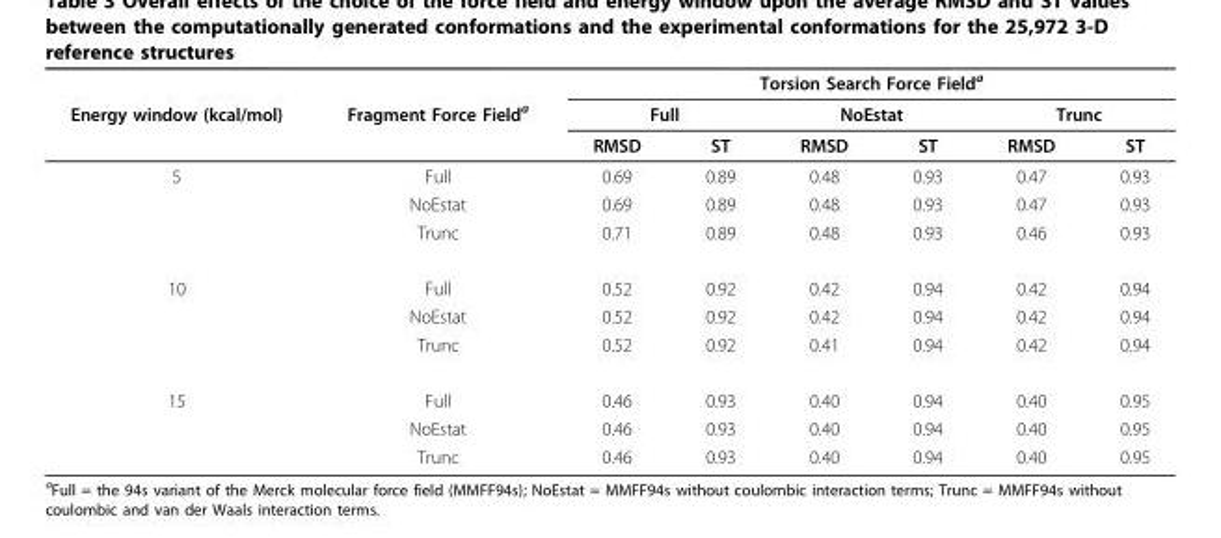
<table><thead><tr><td rowspan="3">Energy window (kcal/mol)</td><td rowspan="3">Fragment Force Field<sup>a</sup></td><td colspan="6">Torsion Search Force Field<sup>a</sup></td></tr><tr><td colspan="2">Full</td><td colspan="2">NoEstat</td><td colspan="2">Trunc</td></tr><tr><td>RMSD</td><td>ST</td><td>RMSD</td><td>ST</td><td>RMSD</td><td>ST</td></tr></thead><tbody><tr><td rowspan="3">5</td><td>Full</td><td>0.69</td><td>0.89</td><td>0.48</td><td>0.93</td><td>0.47</td><td>0.93</td></tr><tr><td>NoEstat</td><td>0.69</td><td>0.89</td><td>0.48</td><td>0.93</td><td>0.47</td><td>0.93</td></tr><tr><td>Trunc</td><td>0.71</td><td>0.89</td><td>0.48</td><td>0.93</td><td>0.46</td><td>0.93</td></tr><tr><td rowspan="3">10</td><td>Full</td><td>0.52</td><td>0.92</td><td>0.42</td><td>0.94</td><td>0.42</td><td>0.94</td></tr><tr><td>NoEstat</td><td>0.52</td><td>0.92</td><td>0.42</td><td>0.94</td><td>0.42</td><td>0.94</td></tr><tr><td>Trunc</td><td>0.52</td><td>0.92</td><td>0.41</td><td>0.94</td><td>0.42</td><td>0.94</td></tr><tr><td rowspan="3">15</td><td>Full</td><td>0.46</td><td>0.93</td><td>0.40</td><td>0.94</td><td>0.40</td><td>0.95</td></tr><tr><td>NoEstat</td><td>0.46</td><td>0.93</td><td>0.40</td><td>0.94</td><td>0.40</td><td>0.95</td></tr><tr><td>Trunc</td><td>0.46</td><td>0.93</td><td>0.40</td><td>0.94</td><td>0.40</td><td>0.95</td></tr></tbody></table>